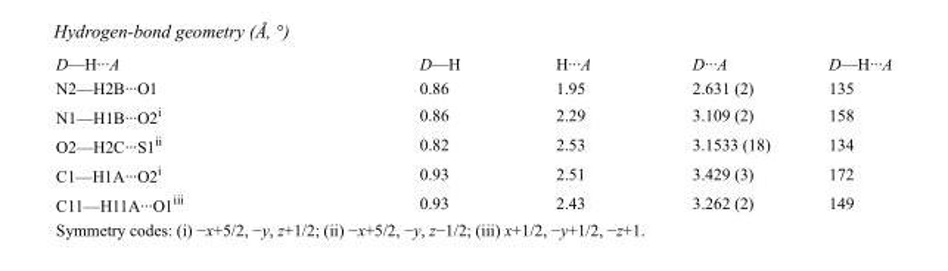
<table><tbody><tr><td>D—H···A</td><td>D—H</td><td>H···A</td><td>D···A</td><td>D—H···A</td></tr><tr><td>N2—H2B···O1</td><td>0.86</td><td>1.95</td><td>2.631 (2)</td><td>135</td></tr><tr><td>N1—H1B···O2<sup>i</sup></td><td>0.86</td><td>2.29</td><td>3.109 (2)</td><td>158</td></tr><tr><td>O2—H2C···S1<sup>ii</sup></td><td>0.82</td><td>2.53</td><td>3.1533 (18)</td><td>134</td></tr><tr><td>C1—H1A···O2<sup>i</sup></td><td>0.93</td><td>2.51</td><td>3.429 (3)</td><td>172</td></tr><tr><td>C11—H11A···O1<sup>iii</sup></td><td>0.93</td><td>2.43</td><td>3.262 (2)</td><td>149</td></tr></tbody></table>